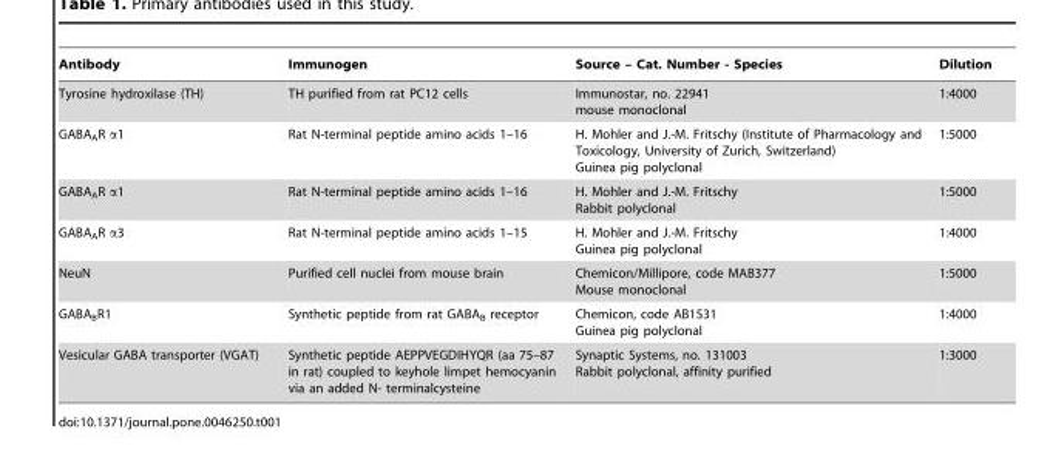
<table><thead><tr><td>Antibody</td><td>Immunogen</td><td>Source – Cat. Number - Species</td><td>Dilution</td></tr></thead><tbody><tr><td>Tyrosine hydroxilase (TH)</td><td>TH purified from rat PC12 cells</td><td>Immunostar, no. 22941 mouse monoclonal</td><td>1:4000</td></tr><tr><td>GABA<sub>A</sub>R α1</td><td>Rat N-terminal peptide amino acids 1–16</td><td>H. Mohler and J.-M. Fritschy (Institute of Pharmacology and Toxicology, University of Zurich, Switzerland) Guinea pig polyclonal</td><td>1:5000</td></tr><tr><td>GABA<sub>A</sub>R α1</td><td>Rat N-terminal peptide amino acids 1–16</td><td>H. Mohler and J.-M. Fritschy Rabbit polyclonal</td><td>1:5000</td></tr><tr><td>GABA<sub>A</sub>R α3</td><td>Rat N-terminal peptide amino acids 1–15</td><td>H. Mohler and J.-M. Fritschy Guinea pig polyclonal</td><td>1:4000</td></tr><tr><td>NeuN</td><td>Purified cell nuclei from mouse brain</td><td>Chemicon/Millipore, code MAB377 Mouse monoclonal</td><td>1:5000</td></tr><tr><td>GABA<sub>B</sub>R1</td><td>Synthetic peptide from rat GABA<sub>B</sub> receptor</td><td>Chemicon, code AB1531 Guinea pig polyclonal</td><td>1:4000</td></tr><tr><td>Vesicular GABA transporter (VGAT)</td><td>Synthetic peptide AEPPVEGDIHYQR (aa 75–87 in rat) coupled to keyhole limpet hemocyanin via an added N- terminalcysteine</td><td>Synaptic Systems, no. 131003 Rabbit polyclonal, affinity purified</td><td>1:3000</td></tr></tbody></table>